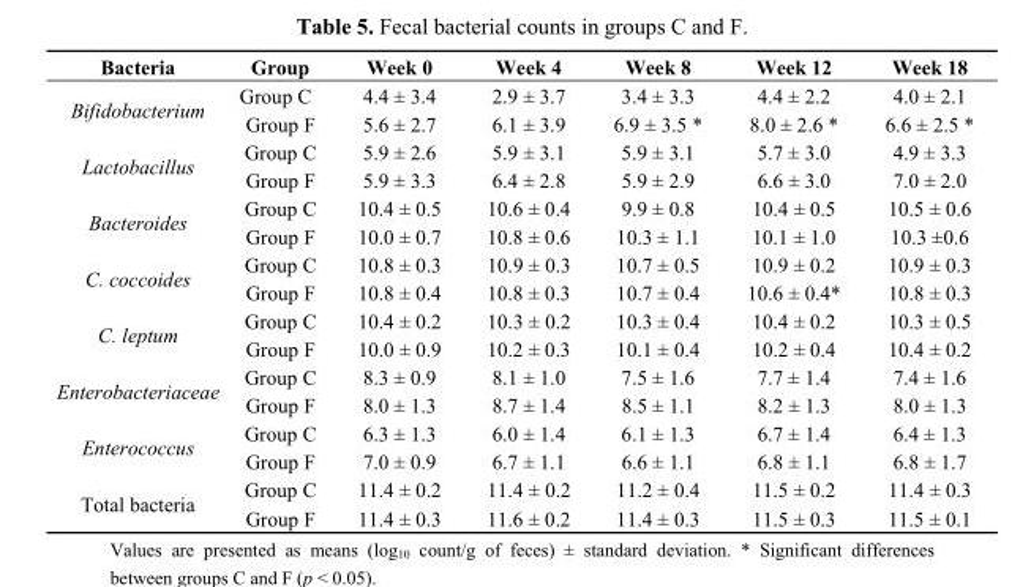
<table><thead><tr><td>Bacteria</td><td>Group</td><td>Week 0</td><td>Week 4</td><td>Week 8</td><td>Week 12</td><td>Week 18</td></tr></thead><tbody><tr><td rowspan="2">Bifidobacterium</td><td>Group C</td><td>4.4 ± 3.4</td><td>2.9 ± 3.7</td><td>3.4 ± 3.3</td><td>4.4 ± 2.2</td><td>4.0 ± 2.1</td></tr><tr><td>Group F</td><td>5.6 ± 2.7</td><td>6.1 ± 3.9</td><td>6.9 ± 3.5 *</td><td>8.0 ± 2.6 *</td><td>6.6 ± 2.5 *</td></tr><tr><td rowspan="2">Lactobacillus</td><td>Group C</td><td>5.9 ± 2.6</td><td>5.9 ± 3.1</td><td>5.9 ± 3.1</td><td>5.7 ± 3.0</td><td>4.9 ± 3.3</td></tr><tr><td>Group F</td><td>5.9 ± 3.3</td><td>6.4 ± 2.8</td><td>5.9 ± 2.9</td><td>6.6 ± 3.0</td><td>7.0 ± 2.0</td></tr><tr><td rowspan="2">Bacteroides</td><td>Group C</td><td>10.4 ± 0.5</td><td>10.6 ± 0.4</td><td>9.9 ± 0.8</td><td>10.4 ± 0.5</td><td>10.5 ± 0.6</td></tr><tr><td>Group F</td><td>10.0 ± 0.7</td><td>10.8 ± 0.6</td><td>10.3 ± 1.1</td><td>10.1 ± 1.0</td><td>10.3 ±0.6</td></tr><tr><td rowspan="2">C. coccoides</td><td>Group C</td><td>10.8 ± 0.3</td><td>10.9 ± 0.3</td><td>10.7 ± 0.5</td><td>10.9 ± 0.2</td><td>10.9 ± 0.3</td></tr><tr><td>Group F</td><td>10.8 ± 0.4</td><td>10.8 ± 0.3</td><td>10.7 ± 0.4</td><td>10.6 ± 0.4*</td><td>10.8 ± 0.3</td></tr><tr><td rowspan="2">C. leptum</td><td>Group C</td><td>10.4 ± 0.2</td><td>10.3 ± 0.2</td><td>10.3 ± 0.4</td><td>10.4 ± 0.2</td><td>10.3 ± 0.5</td></tr><tr><td>Group F</td><td>10.0 ± 0.9</td><td>10.2 ± 0.3</td><td>10.1 ± 0.4</td><td>10.2 ± 0.4</td><td>10.4 ± 0.2</td></tr><tr><td rowspan="2">Enterobacteriaceae</td><td>Group C</td><td>8.3 ± 0.9</td><td>8.1 ± 1.0</td><td>7.5 ± 1.6</td><td>7.7 ± 1.4</td><td>7.4 ± 1.6</td></tr><tr><td>Group F</td><td>8.0 ± 1.3</td><td>8.7 ± 1.4</td><td>8.5 ± 1.1</td><td>8.2 ± 1.3</td><td>8.0 ± 1.3</td></tr><tr><td rowspan="2">Enterococcus</td><td>Group C</td><td>6.3 ± 1.3</td><td>6.0 ± 1.4</td><td>6.1 ± 1.3</td><td>6.7 ± 1.4</td><td>6.4 ± 1.3</td></tr><tr><td>Group F</td><td>7.0 ± 0.9</td><td>6.7 ± 1.1</td><td>6.6 ± 1.1</td><td>6.8 ± 1.1</td><td>6.8 ± 1.7</td></tr><tr><td rowspan="2">Total bacteria</td><td>Group C</td><td>11.4 ± 0.2</td><td>11.4 ± 0.2</td><td>11.2 ± 0.4</td><td>11.5 ± 0.2</td><td>11.4 ± 0.3</td></tr><tr><td>Group F</td><td>11.4 ± 0.3</td><td>11.6 ± 0.2</td><td>11.4 ± 0.3</td><td>11.5 ± 0.3</td><td>11.5 ± 0.1</td></tr></tbody></table>